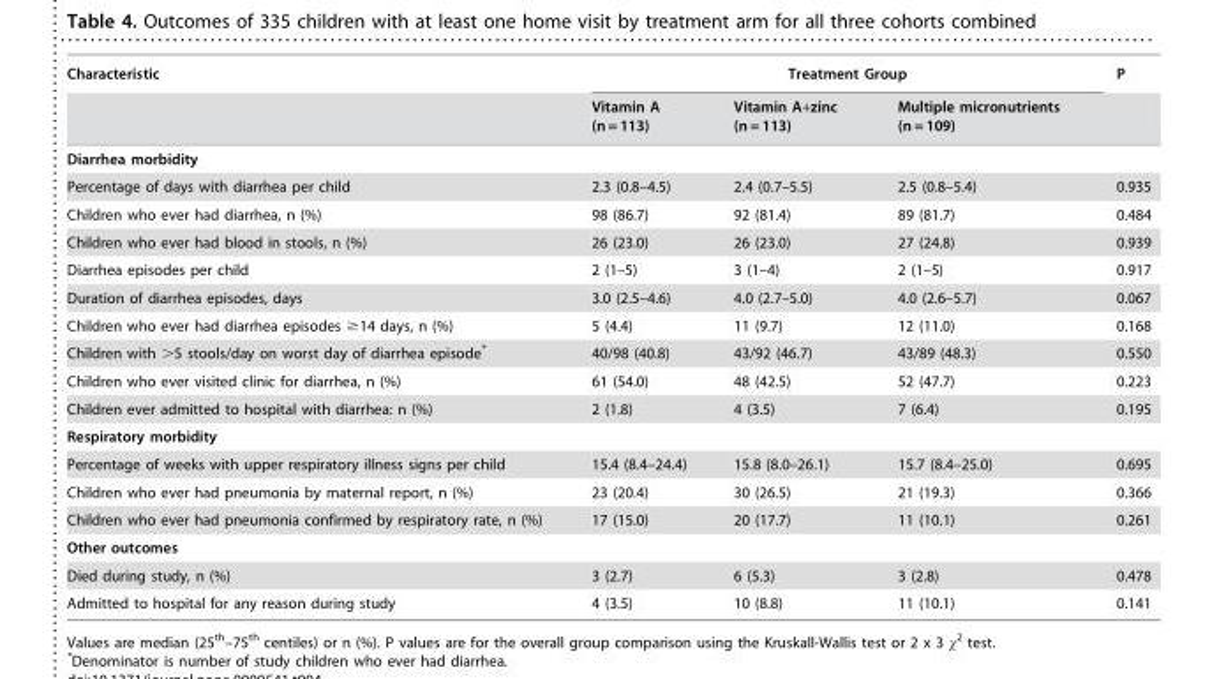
<table><thead><tr><td rowspan="2">Characteristic</td><td colspan="3">Treatment Group</td><td rowspan="2">P</td></tr><tr><td>Vitamin A (n = 113)</td><td>Vitamin A+zinc (n = 113)</td><td>Multiple micronutrients (n = 109)</td></tr></thead><tbody><tr><td colspan="5">Diarrhea morbidity</td></tr><tr><td>Percentage of days with diarrhea per child</td><td>2.3 (0.8–4.5)</td><td>2.4 (0.7–5.5)</td><td>2.5 (0.8–5.4)</td><td>0.935</td></tr><tr><td>Children who ever had diarrhea, n (%)</td><td>98 (86.7)</td><td>92 (81.4)</td><td>89 (81.7)</td><td>0.484</td></tr><tr><td>Children who ever had blood in stools, n (%)</td><td>26 (23.0)</td><td>26 (23.0)</td><td>27 (24.8)</td><td>0.939</td></tr><tr><td>Diarrhea episodes per child</td><td>2 (1–5)</td><td>3 (1–4)</td><td>2 (1–5)</td><td>0.917</td></tr><tr><td>Duration of diarrhea episodes, days</td><td>3.0 (2.5–4.6)</td><td>4.0 (2.7–5.0)</td><td>4.0 (2.6–5.7)</td><td>0.067</td></tr><tr><td>Children who ever had diarrhea episodes ≥14 days, n (%)</td><td>5 (4.4)</td><td>11 (9.7)</td><td>12 (11.0)</td><td>0.168</td></tr><tr><td>Children with &gt;5 stools/day on worst day of diarrhea episode*</td><td>40/98 (40.8)</td><td>43/92 (46.7)</td><td>43/89 (48.3)</td><td>0.550</td></tr><tr><td>Children who ever visited clinic for diarrhea, n (%)</td><td>61 (54.0)</td><td>48 (42.5)</td><td>52 (47.7)</td><td>0.223</td></tr><tr><td>Children ever admitted to hospital with diarrhea: n (%)</td><td>2 (1.8)</td><td>4 (3.5)</td><td>7 (6.4)</td><td>0.195</td></tr><tr><td colspan="5">Respiratory morbidity</td></tr><tr><td>Percentage of weeks with upper respiratory illness signs per child</td><td>15.4 (8.4–24.4)</td><td>15.8 (8.0–26.1)</td><td>15.7 (8.4–25.0)</td><td>0.695</td></tr><tr><td>Children who ever had pneumonia by maternal report, n (%)</td><td>23 (20.4)</td><td>30 (26.5)</td><td>21 (19.3)</td><td>0.366</td></tr><tr><td>Children who ever had pneumonia confirmed by respiratory rate, n (%)</td><td>17 (15.0)</td><td>20 (17.7)</td><td>11 (10.1)</td><td>0.261</td></tr><tr><td colspan="5">Other outcomes</td></tr><tr><td>Died during study, n (%)</td><td>3 (2.7)</td><td>6 (5.3)</td><td>3 (2.8)</td><td>0.478</td></tr><tr><td>Admitted to hospital for any reason during study</td><td>4 (3.5)</td><td>10 (8.8)</td><td>11 (10.1)</td><td>0.141</td></tr></tbody></table>